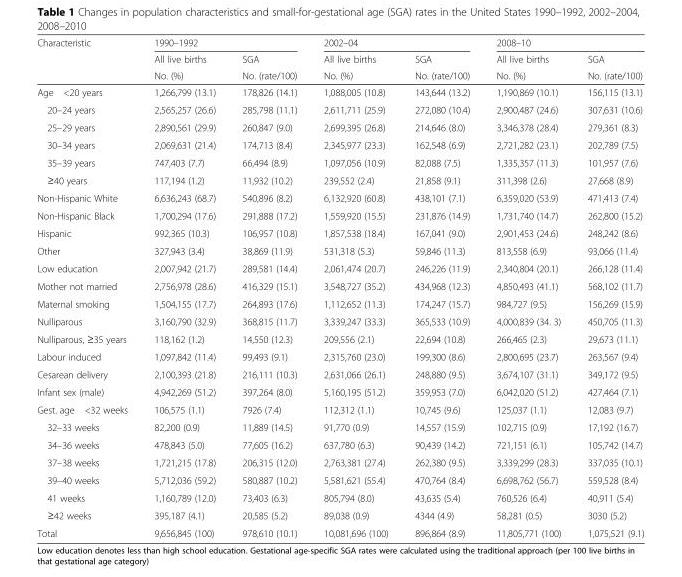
<table><thead><tr><td rowspan="3">Characteristic</td><td colspan="2">1990–1992</td><td colspan="2">2002–04</td><td colspan="2">2008–10</td></tr><tr><td rowspan="2">All live births No. (%)</td><td rowspan="2">SGA No. (rate/100)</td><td rowspan="2">All live births No. (%)</td><td rowspan="2">SGA No. (rate/100)</td><td rowspan="2">All live births No. (%)</td><td rowspan="2">SGA No. (rate/100)</td></tr><tr></tr></thead><tbody><tr><td>Age &lt;20 years</td><td>1,266,799 (13.1)</td><td>178,826 (14.1)</td><td>1,088,005 (10.8)</td><td>143,644 (13.2)</td><td>1,190,869 (10.1)</td><td>156,115 (13.1)</td></tr><tr><td>20–24 years</td><td>2,565,257 (26.6)</td><td>285,798 (11.1)</td><td>2,611,711 (25.9)</td><td>272,080 (10.4)</td><td>2,900,487 (24.6)</td><td>307,631 (10.6)</td></tr><tr><td>25–29 years</td><td>2,890,561 (29.9)</td><td>260,847 (9.0)</td><td>2,699,395 (26.8)</td><td>214,646 (8.0)</td><td>3,346,378 (28.4)</td><td>279,361 (8.3)</td></tr><tr><td>30–34 years</td><td>2,069,631 (21.4)</td><td>174,713 (8.4)</td><td>2,345,977 (23.3)</td><td>162,548 (6.9)</td><td>2,721,282 (23.1)</td><td>202,789 (7.5)</td></tr><tr><td>35–39 years</td><td>747,403 (7.7)</td><td>66,494 (8.9)</td><td>1,097,056 (10.9)</td><td>82,088 (7.5)</td><td>1,335,357 (11.3)</td><td>101,957 (7.6)</td></tr><tr><td>≥40 years</td><td>117,194 (1.2)</td><td>11,932 (10.2)</td><td>239,552 (2.4)</td><td>21,858 (9.1)</td><td>311,398 (2.6)</td><td>27,668 (8.9)</td></tr><tr><td>Non-Hispanic White</td><td>6,636,243 (68.7)</td><td>540,896 (8.2)</td><td>6,132,920 (60.8)</td><td>438,101 (7.1)</td><td>6,359,020 (53.9)</td><td>471,413 (7.4)</td></tr><tr><td>Non-Hispanic Black</td><td>1,700,294 (17.6)</td><td>291,888 (17.2)</td><td>1,559,920 (15.5)</td><td>231,876 (14.9)</td><td>1,731,740 (14.7)</td><td>262,800 (15.2)</td></tr><tr><td>Hispanic</td><td>992,365 (10.3)</td><td>106,957 (10.8)</td><td>1,857,538 (18.4)</td><td>167,041 (9.0)</td><td>2,901,453 (24.6)</td><td>248,242 (8.6)</td></tr><tr><td>Other</td><td>327,943 (3.4)</td><td>38,869 (11.9)</td><td>531,318 (5.3)</td><td>59,846 (11.3)</td><td>813,558 (6.9)</td><td>93,066 (11.4)</td></tr><tr><td>Low education</td><td>2,007,942 (21.7)</td><td>289,581 (14.4)</td><td>2,061,474 (20.7)</td><td>246,226 (11.9)</td><td>2,340,804 (20.1)</td><td>266,128 (11.4)</td></tr><tr><td>Mother not married</td><td>2,756,978 (28.6)</td><td>416,329 (15.1)</td><td>3,548,727 (35.2)</td><td>434,968 (12.3)</td><td>4,850,493 (41.1)</td><td>568,102 (11.7)</td></tr><tr><td>Maternal smoking</td><td>1,504,155 (17.7)</td><td>264,893 (17.6)</td><td>1,112,652 (11.3)</td><td>174,247 (15.7)</td><td>984,727 (9.5)</td><td>156,269 (15.9)</td></tr><tr><td>Nulliparous</td><td>3,160,790 (32.9)</td><td>368,815 (11.7)</td><td>3,339,247 (33.3)</td><td>365,533 (10.9)</td><td>4,000,839 (34. 3)</td><td>450,705 (11.3)</td></tr><tr><td>Nulliparous, ≥35 years</td><td>118,162 (1.2)</td><td>14,550 (12.3)</td><td>209,556 (2.1)</td><td>22,694 (10.8)</td><td>266,465 (2.3)</td><td>29,673 (11.1)</td></tr><tr><td>Labour induced</td><td>1,097,842 (11.4)</td><td>99,493 (9.1)</td><td>2,315,760 (23.0)</td><td>199,300 (8.6)</td><td>2,800,695 (23.7)</td><td>263,567 (9.4)</td></tr><tr><td>Cesarean delivery</td><td>2,100,393 (21.8)</td><td>216,111 (10.3)</td><td>2,631,066 (26.1)</td><td>248,880 (9.5)</td><td>3,674,107 (31.1)</td><td>349,172 (9.5)</td></tr><tr><td>Infant sex (male)</td><td>4,942,269 (51.2)</td><td>397,264 (8.0)</td><td>5,160,195 (51.2)</td><td>359,953 (7.0)</td><td>6,042,020 (51.2)</td><td>427,464 (7.1)</td></tr><tr><td>Gest. age &lt;32 weeks</td><td>106,575 (1.1)</td><td>7926 (7.4)</td><td>112,312 (1.1)</td><td>10,745 (9.6)</td><td>125,037 (1.1)</td><td>12,083 (9.7)</td></tr><tr><td>32–33 weeks</td><td>82,200 (0.9)</td><td>11,889 (14.5)</td><td>91,770 (0.9)</td><td>14,557 (15.9)</td><td>102,715 (0.9)</td><td>17,192 (16.7)</td></tr><tr><td>34–36 weeks</td><td>478,843 (5.0)</td><td>77,605 (16.2)</td><td>637,780 (6.3)</td><td>90,439 (14.2)</td><td>721,151 (6.1)</td><td>105,742 (14.7)</td></tr><tr><td>37–38 weeks</td><td>1,721,215 (17.8)</td><td>206,315 (12.0)</td><td>2,763,381 (27.4)</td><td>262,380 (9.5)</td><td>3,339,299 (28.3)</td><td>337,035 (10.1)</td></tr><tr><td>39–40 weeks</td><td>5,712,036 (59.2)</td><td>580,887 (10.2)</td><td>5,581,621 (55.4)</td><td>470,764 (8.4)</td><td>6,698,762 (56.7)</td><td>559,528 (8.4)</td></tr><tr><td>41 weeks</td><td>1,160,789 (12.0)</td><td>73,403 (6.3)</td><td>805,794 (8.0)</td><td>43,635 (5.4)</td><td>760,526 (6.4)</td><td>40,911 (5.4)</td></tr><tr><td>≥42 weeks</td><td>395,187 (4.1)</td><td>20,585 (5.2)</td><td>89,038 (0.9)</td><td>4344 (4.9)</td><td>58,281 (0.5)</td><td>3030 (5.2)</td></tr><tr><td>Total</td><td>9,656,845 (100)</td><td>978,610 (10.1)</td><td>10,081,696 (100)</td><td>896,864 (8.9)</td><td>11,805,771 (100)</td><td>1,075,521 (9.1)</td></tr></tbody></table>